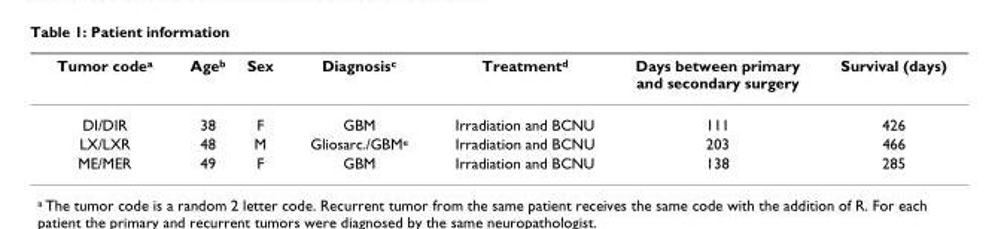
<table><thead><tr><td>Tumor codea</td><td>Ageb</td><td>Sex</td><td>Diagnosisc</td><td>Treatmentd</td><td>Days between primary and secondary surgery</td><td>Survival (days)</td></tr></thead><tbody><tr><td>DI/DIR</td><td>38</td><td>F</td><td>GBM</td><td>Irradiation and BCNU</td><td>111</td><td>426</td></tr><tr><td>LX/LXR</td><td>48</td><td>M</td><td>Gliosarc./GBMe</td><td>Irradiation and BCNU</td><td>203</td><td>466</td></tr><tr><td>ME/MER</td><td>49</td><td>F</td><td>GBM</td><td>Irradiation and BCNU</td><td>138</td><td>285</td></tr></tbody></table>